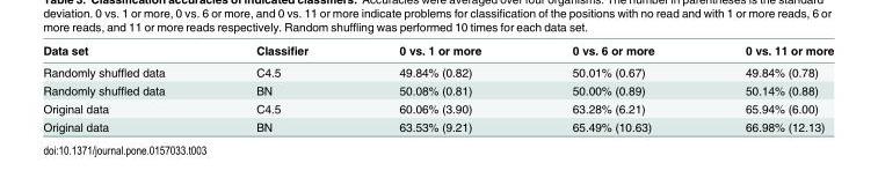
<table><thead><tr><td>Data set</td><td>Classifier</td><td>0 vs. 1 or more</td><td>0 vs. 6 or more</td><td>0 vs. 11 or more</td></tr></thead><tbody><tr><td>Randomly shuffled data</td><td>C4.5</td><td>49.84% (0.82)</td><td>50.01% (0.67)</td><td>49.84% (0.78)</td></tr><tr><td>Randomly shuffled data</td><td>BN</td><td>50.08% (0.81)</td><td>50.00% (0.89)</td><td>50.14% (0.88)</td></tr><tr><td>Original data</td><td>C4.5</td><td>60.06% (3.90)</td><td>63.28% (6.21)</td><td>65.94% (6.00)</td></tr><tr><td>Original data</td><td>BN</td><td>63.53% (9.21)</td><td>65.49% (10.63)</td><td>66.98% (12.13)</td></tr></tbody></table>